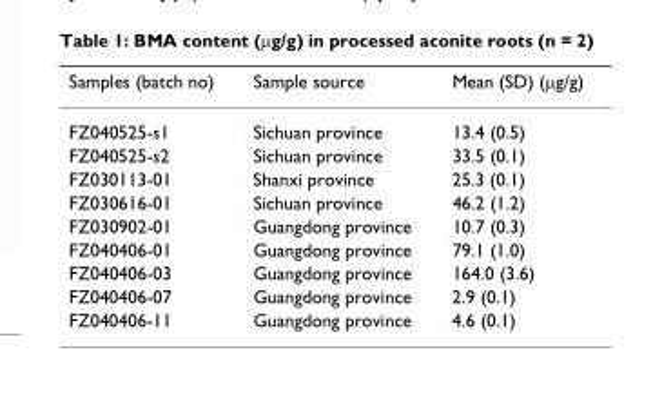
<table><thead><tr><td>Samples (batch no)</td><td>Sample source</td><td>Mean (SD) (μg/g)</td></tr></thead><tbody><tr><td>FZ040525-s1</td><td>Sichuan province</td><td>13.4 (0.5)</td></tr><tr><td>FZ040525-s2</td><td>Sichuan province</td><td>33.5 (0.1)</td></tr><tr><td>FZ030113-01</td><td>Shanxi province</td><td>25.3 (0.1)</td></tr><tr><td>FZ030616-01</td><td>Sichuan province</td><td>46.2 (1.2)</td></tr><tr><td>FZ030902-01</td><td>Guangdong province</td><td>10.7 (0.3)</td></tr><tr><td>FZ040406-01</td><td>Guangdong province</td><td>79.1 (1.0)</td></tr><tr><td>FZ040406-03</td><td>Guangdong province</td><td>164.0 (3.6)</td></tr><tr><td>FZ040406-07</td><td>Guangdong province</td><td>2.9 (0.1)</td></tr><tr><td>FZ040406-11</td><td>Guangdong province</td><td>4.6 (0.1)</td></tr></tbody></table>